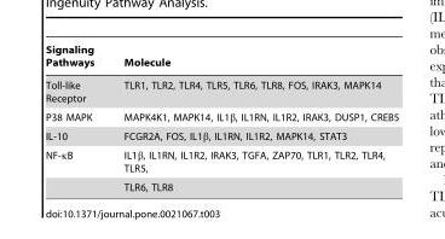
<table><thead><tr><td>Signaling Pathways</td><td>Molecule</td></tr></thead><tbody><tr><td>Toll-like Receptor</td><td>TLR1, TLR2, TLR4, TLR5, TLR6, TLR8, FOS, IRAK3, MAPK14</td></tr><tr><td>P38 MAPK</td><td>MAPK4K1, MAPK14, IL1β, IL1RN, IL1R2, IRAK3, DUSP1, CREB5</td></tr><tr><td>IL-10</td><td>FCGR2A, FOS, IL1β, IL1RN, IL1R2, MAPK14, STAT3</td></tr><tr><td rowspan="2">NF-κB</td><td>IL1β, IL1RN, IL1R2, IRAK3, TGFA, ZAP70, TLR1, TLR2, TLR4, TLR5,</td></tr><tr><td>TLR6, TLR8</td></tr></tbody></table>